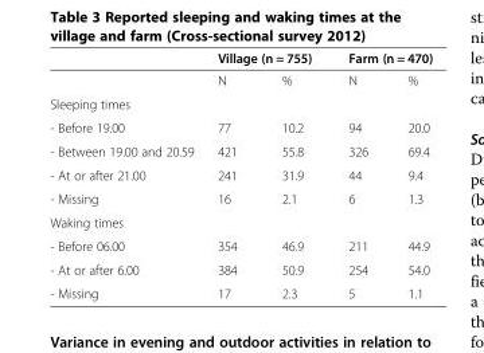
<table><thead><tr><td rowspan="2"></td><td colspan="2">Village (n = 755)</td><td colspan="2">Farm (n = 470)</td></tr><tr><td>N</td><td>%</td><td>N</td><td>%</td></tr></thead><tbody><tr><td colspan="5">Sleeping times</td></tr><tr><td>- Before 19.00</td><td>77</td><td>10.2</td><td>94</td><td>20.0</td></tr><tr><td>- Between 19.00 and 20.59</td><td>421</td><td>55.8</td><td>326</td><td>69.4</td></tr><tr><td>- At or after 21.00</td><td>241</td><td>31.9</td><td>44</td><td>9.4</td></tr><tr><td>- Missing</td><td>16</td><td>2.1</td><td>6</td><td>1.3</td></tr><tr><td colspan="5">Waking times</td></tr><tr><td>- Before 06.00</td><td>354</td><td>46.9</td><td>211</td><td>44.9</td></tr><tr><td>- At or after 6.00</td><td>384</td><td>50.9</td><td>254</td><td>54.0</td></tr><tr><td>- Missing</td><td>17</td><td>2.3</td><td>5</td><td>1.1</td></tr></tbody></table>